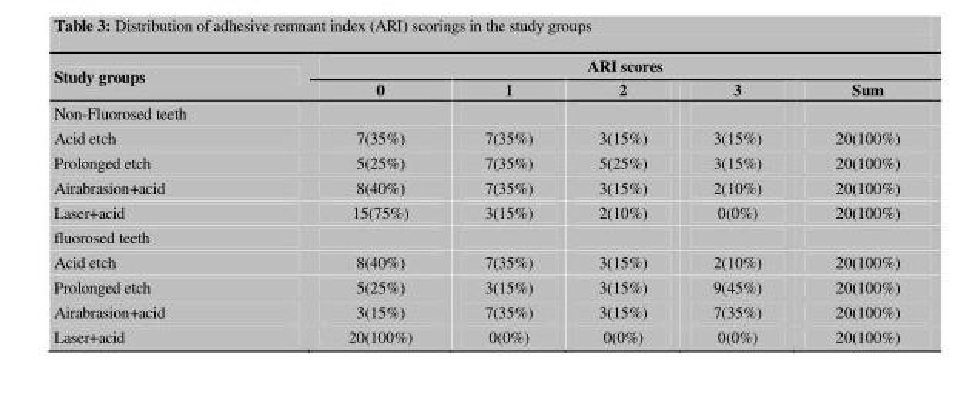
<table><thead><tr><td rowspan="2">Study groups</td><td colspan="5">ARI scores</td></tr><tr><td>0</td><td>1</td><td>2</td><td>3</td><td>Sum</td></tr></thead><tbody><tr><td colspan="6">Non-Fluorosed teeth</td></tr><tr><td>Acid etch</td><td>7(35%)</td><td>7(35%)</td><td>3(15%)</td><td>3(15%)</td><td>20(100%)</td></tr><tr><td>Prolonged etch</td><td>5(25%)</td><td>7(35%)</td><td>5(25%)</td><td>3(15%)</td><td>20(100%)</td></tr><tr><td>Airabrasion+acid</td><td>8(40%)</td><td>7(35%)</td><td>3(15%)</td><td>2(10%)</td><td>20(100%)</td></tr><tr><td>Laser+acid</td><td>15(75%)</td><td>3(15%)</td><td>2(10%)</td><td>0(0%)</td><td>20(100%)</td></tr><tr><td colspan="6">fluorosed teeth</td></tr><tr><td>Acid etch</td><td>8(40%)</td><td>7(35%)</td><td>3(15%)</td><td>2(10%)</td><td>20(100%)</td></tr><tr><td>Prolonged etch</td><td>5(25%)</td><td>3(15%)</td><td>3(15%)</td><td>9(45%)</td><td>20(100%)</td></tr><tr><td>Airabrasion+acid</td><td>3(15%)</td><td>7(35%)</td><td>3(15%)</td><td>7(35%)</td><td>20(100%)</td></tr><tr><td>Laser+acid</td><td>20(100%)</td><td>0(0%)</td><td>0(0%)</td><td>0(0%)</td><td>20(100%)</td></tr></tbody></table>